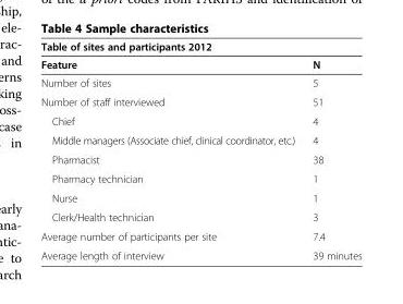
<table><thead><tr><td colspan="2">Table of sites and participants 2012</td></tr><tr><td>Feature</td><td>N</td></tr></thead><tbody><tr><td>Number of sites</td><td>5</td></tr><tr><td>Number of staff interviewed</td><td>51</td></tr><tr><td>Chief</td><td>4</td></tr><tr><td>Middle managers (Associate chief, clinical coordinator, etc.)</td><td>4</td></tr><tr><td>Pharmacist</td><td>38</td></tr><tr><td>Pharmacy technician</td><td>1</td></tr><tr><td>Nurse</td><td>1</td></tr><tr><td>Clerk/Health technician</td><td>3</td></tr><tr><td>Average number of participants per site</td><td>7.4</td></tr><tr><td>Average length of interview</td><td>39 minutes</td></tr></tbody></table>